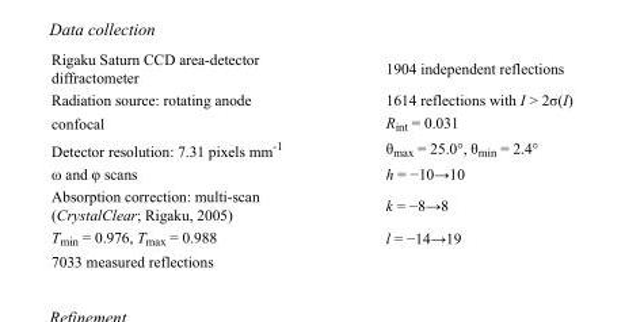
<table><tbody><tr><td>Rigaku Saturn CCD area-detector diffractometer</td><td>1904 independent reflections</td></tr><tr><td>Radiation source: rotating anode</td><td>1614 reflections with I &gt; 2σ(I)</td></tr><tr><td>confocal</td><td>R<sub>int</sub> = 0.031</td></tr><tr><td>Detector resolution: 7.31 pixels mm<sup>-1</sup></td><td>θ<sub>max</sub> = 25.0°, θ<sub>min</sub> = 2.4°</td></tr><tr><td>ω and φ scans</td><td>h = −10→10</td></tr><tr><td>Absorption correction: multi-scan (CrystalClear; Rigaku, 2005)</td><td>k = −8→8</td></tr><tr><td>T<sub>min</sub> = 0.976, T<sub>max</sub> = 0.988</td><td>l = −14→19</td></tr><tr><td>7033 measured reflections</td><td></td></tr></tbody></table>